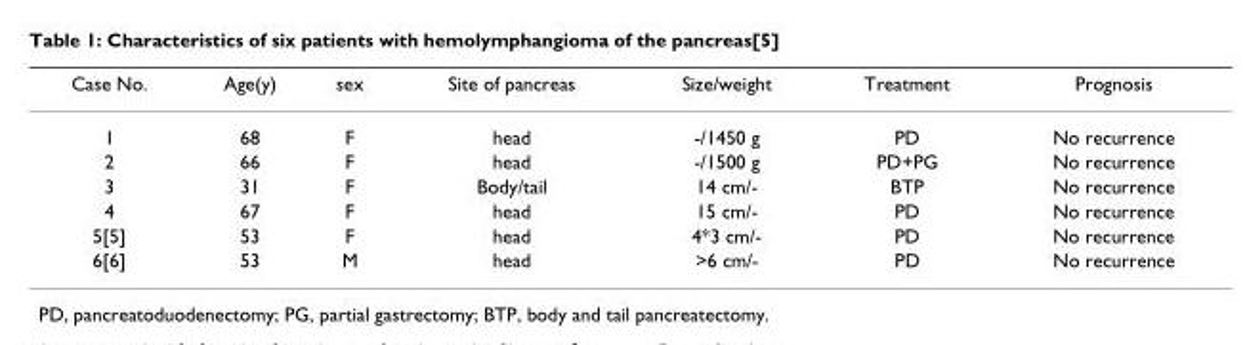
<table><thead><tr><td>Case No.</td><td>Age(y)</td><td>sex</td><td>Site of pancreas</td><td>Size/weight</td><td>Treatment</td><td>Prognosis</td></tr></thead><tbody><tr><td>1</td><td>68</td><td>F</td><td>head</td><td>-/1450 g</td><td>PD</td><td>No recurrence</td></tr><tr><td>2</td><td>66</td><td>F</td><td>head</td><td>-/1500 g</td><td>PD+PG</td><td>No recurrence</td></tr><tr><td>3</td><td>31</td><td>F</td><td>Body/tail</td><td>14 cm/-</td><td>BTP</td><td>No recurrence</td></tr><tr><td>4</td><td>67</td><td>F</td><td>head</td><td>15 cm/-</td><td>PD</td><td>No recurrence</td></tr><tr><td>5[5]</td><td>53</td><td>F</td><td>head</td><td>4*3 cm/-</td><td>PD</td><td>No recurrence</td></tr><tr><td>6[6]</td><td>53</td><td>M</td><td>head</td><td>&gt;6 cm/-</td><td>PD</td><td>No recurrence</td></tr></tbody></table>